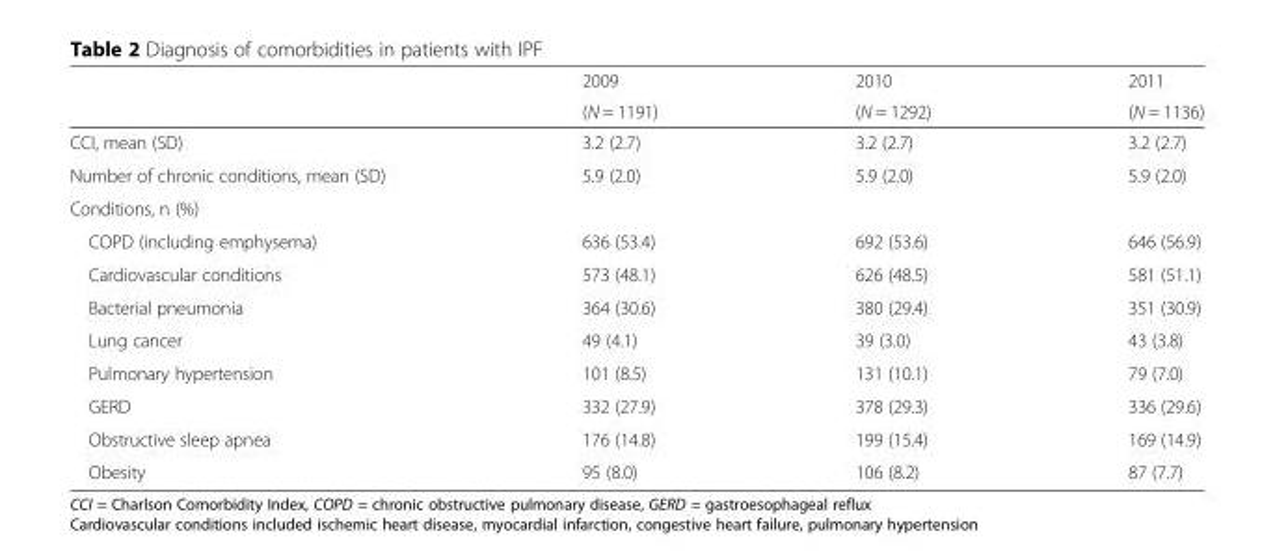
<table><thead><tr><td rowspan="2"></td><td rowspan="2">2009 (N = 1191)</td><td rowspan="2">2010 (N = 1292)</td><td rowspan="2">2011 (N = 1136)</td></tr><tr></tr></thead><tbody><tr><td>CCI, mean (SD)</td><td>3.2 (2.7)</td><td>3.2 (2.7)</td><td>3.2 (2.7)</td></tr><tr><td>Number of chronic conditions, mean (SD)</td><td>5.9 (2.0)</td><td>5.9 (2.0)</td><td>5.9 (2.0)</td></tr><tr><td colspan="4">Conditions, n (%)</td></tr><tr><td>COPD (including emphysema)</td><td>636 (53.4)</td><td>692 (53.6)</td><td>646 (56.9)</td></tr><tr><td>Cardiovascular conditions</td><td>573 (48.1)</td><td>626 (48.5)</td><td>581 (51.1)</td></tr><tr><td>Bacterial pneumonia</td><td>364 (30.6)</td><td>380 (29.4)</td><td>351 (30.9)</td></tr><tr><td>Lung cancer</td><td>49 (4.1)</td><td>39 (3.0)</td><td>43 (3.8)</td></tr><tr><td>Pulmonary hypertension</td><td>101 (8.5)</td><td>131 (10.1)</td><td>79 (7.0)</td></tr><tr><td>GERD</td><td>332 (27.9)</td><td>378 (29.3)</td><td>336 (29.6)</td></tr><tr><td>Obstructive sleep apnea</td><td>176 (14.8)</td><td>199 (15.4)</td><td>169 (14.9)</td></tr><tr><td>Obesity</td><td>95 (8.0)</td><td>106 (8.2)</td><td>87 (7.7)</td></tr></tbody></table>